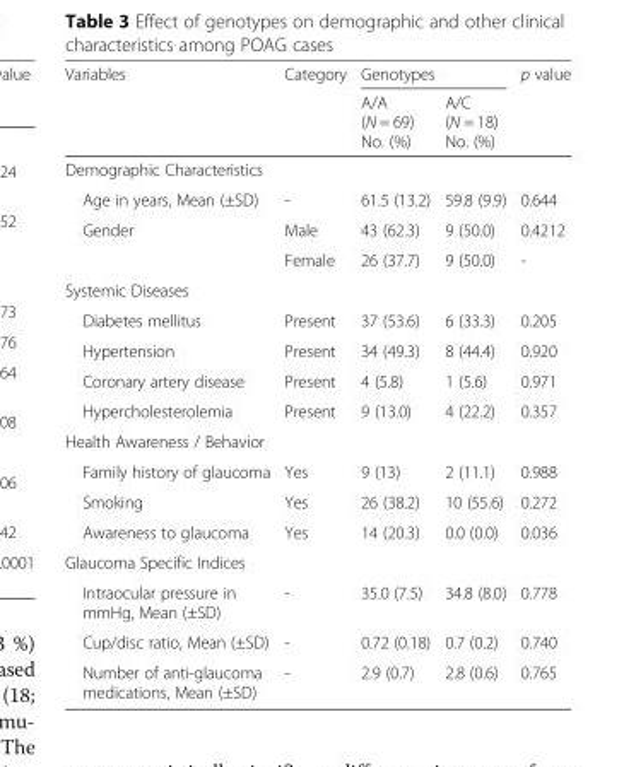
<table><thead><tr><td rowspan="2">Variables</td><td rowspan="2">Category</td><td colspan="2">Genotypes</td><td rowspan="2">p value</td></tr><tr><td>A/A (N = 69) No. (%)</td><td>A/C (N = 18) No. (%)</td></tr></thead><tbody><tr><td colspan="5">Demographic Characteristics</td></tr><tr><td>Age in years, Mean (±SD)</td><td>-</td><td>61.5 (13.2)</td><td>59.8 (9.9)</td><td>0.644</td></tr><tr><td rowspan="2">Gender</td><td>Male</td><td>43 (62.3)</td><td>9 (50.0)</td><td>0.4212</td></tr><tr><td>Female</td><td>26 (37.7)</td><td>9 (50.0)</td><td>-</td></tr><tr><td colspan="5">Systemic Diseases</td></tr><tr><td>Diabetes mellitus</td><td>Present</td><td>37 (53.6)</td><td>6 (33.3)</td><td>0.205</td></tr><tr><td>Hypertension</td><td>Present</td><td>34 (49.3)</td><td>8 (44.4)</td><td>0.920</td></tr><tr><td>Coronary artery disease</td><td>Present</td><td>4 (5.8)</td><td>1 (5.6)</td><td>0.971</td></tr><tr><td>Hypercholesterolemia</td><td>Present</td><td>9 (13.0)</td><td>4 (22.2)</td><td>0.357</td></tr><tr><td colspan="5">Health Awareness / Behavior</td></tr><tr><td>Family history of glaucoma</td><td>Yes</td><td>9 (13)</td><td>2 (11.1)</td><td>0.988</td></tr><tr><td>Smoking</td><td>Yes</td><td>26 (38.2)</td><td>10 (55.6)</td><td>0.272</td></tr><tr><td>Awareness to glaucoma</td><td>Yes</td><td>14 (20.3)</td><td>0.0 (0.0)</td><td>0.036</td></tr><tr><td colspan="5">Glaucoma Specific Indices</td></tr><tr><td>Intraocular pressure in mmHg, Mean (±SD)</td><td>-</td><td>35.0 (7.5)</td><td>34.8 (8.0)</td><td>0.778</td></tr><tr><td>Cup/disc ratio, Mean (±SD)</td><td>-</td><td>0.72 (0.18)</td><td>0.7 (0.2)</td><td>0.740</td></tr><tr><td>Number of anti-glaucoma medications, Mean (±SD)</td><td>-</td><td>2.9 (0.7)</td><td>2.8 (0.6)</td><td>0.765</td></tr></tbody></table>